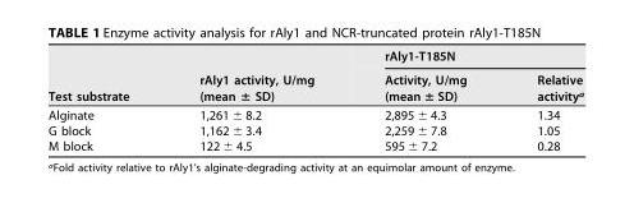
<table><thead><tr><td rowspan="2">Test substrate</td><td rowspan="2">rAly1 activity, U/mg (mean ± SD)</td><td colspan="2">rAly1-T185N</td></tr><tr><td>Activity, U/mg (mean ± SD)</td><td>Relative activity<sup>a</sup></td></tr></thead><tbody><tr><td>Alginate</td><td>1,261 ± 8.2</td><td>2,895 ± 4.3</td><td>1.34</td></tr><tr><td>G block</td><td>1,162 ± 3.4</td><td>2,259 ± 7.8</td><td>1.05</td></tr><tr><td>M block</td><td>122 ± 4.5</td><td>595 ± 7.2</td><td>0.28</td></tr></tbody></table>